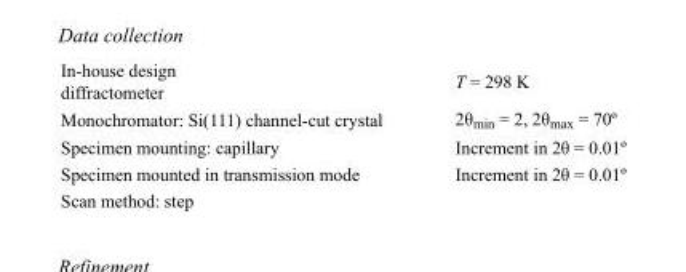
<table><tbody><tr><td>In-house design diffractometer</td><td>T = 298 K</td></tr><tr><td>Monochromator: Si(111) channel-cut crystal</td><td>2θ<sub>min</sub> = 2, 2θ<sub>max</sub> = 70º</td></tr><tr><td>Specimen mounting: capillary</td><td>Increment in 2θ = 0.01º</td></tr><tr><td>Specimen mounted in transmission mode</td><td>Increment in 2θ = 0.01º</td></tr><tr><td>Scan method: step</td><td></td></tr></tbody></table>